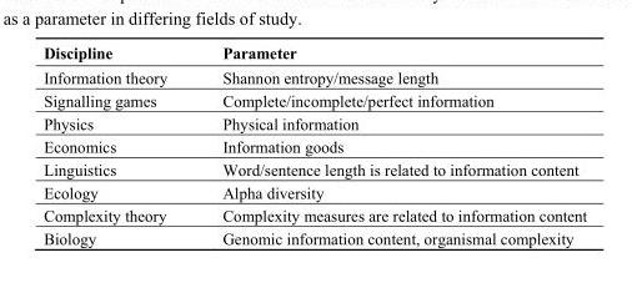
<table><thead><tr><td>Discipline</td><td>Parameter</td></tr></thead><tbody><tr><td>Information theory</td><td>Shannon entropy/message length</td></tr><tr><td>Signalling games</td><td>Complete/incomplete/perfect information</td></tr><tr><td>Physics</td><td>Physical information</td></tr><tr><td>Economics</td><td>Information goods</td></tr><tr><td>Linguistics</td><td>Word/sentence length is related to information content</td></tr><tr><td>Ecology</td><td>Alpha diversity</td></tr><tr><td>Complexity theory</td><td>Complexity measures are related to information content</td></tr><tr><td>Biology</td><td>Genomic information content, organismal complexity</td></tr></tbody></table>